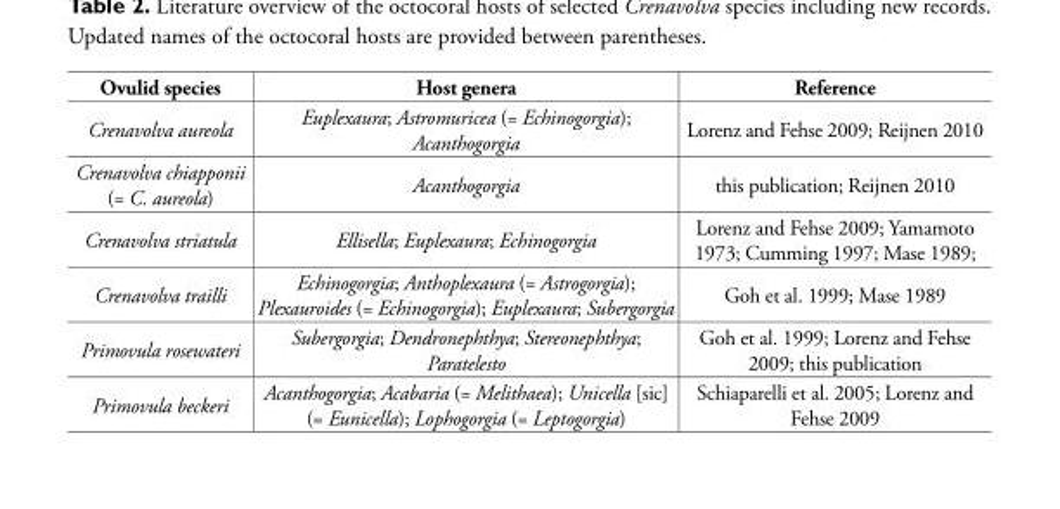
<table><thead><tr><td>Ovulid species</td><td>Host genera</td><td>Reference</td></tr></thead><tbody><tr><td>Crenavolva aureola</td><td>Euplexaura; Astromuricea (= Echinogorgia); Acanthogorgia</td><td>Lorenz and Fehse 2009; Reijnen 2010</td></tr><tr><td>Crenavolva chiapponii (= C. aureola)</td><td>Acanthogorgia</td><td>this publication; Reijnen 2010</td></tr><tr><td>Crenavolva striatula</td><td>Ellisella; Euplexaura; Echinogorgia</td><td>Lorenz and Fehse 2009; Yamamoto 1973; Cumming 1997; Mase 1989;</td></tr><tr><td>Crenavolva trailli</td><td>Echinogorgia; Anthoplexaura (= Astrogorgia); Plexauroides (= Echinogorgia); Euplexaura; Subergorgia</td><td>Goh et al. 1999; Mase 1989</td></tr><tr><td>Primovula rosewateri</td><td>Subergorgia; Dendronephthya; Stereonephthya; Paratelesto</td><td>Goh et al. 1999; Lorenz and Fehse 2009; this publication</td></tr><tr><td>Primovula beckeri</td><td>Acanthogorgia; Acabaria (= Melithaea); Unicella [sic] (= Eunicella); Lophogorgia (= Leptogorgia)</td><td>Schiaparelli et al. 2005; Lorenz and Fehse 2009</td></tr></tbody></table>